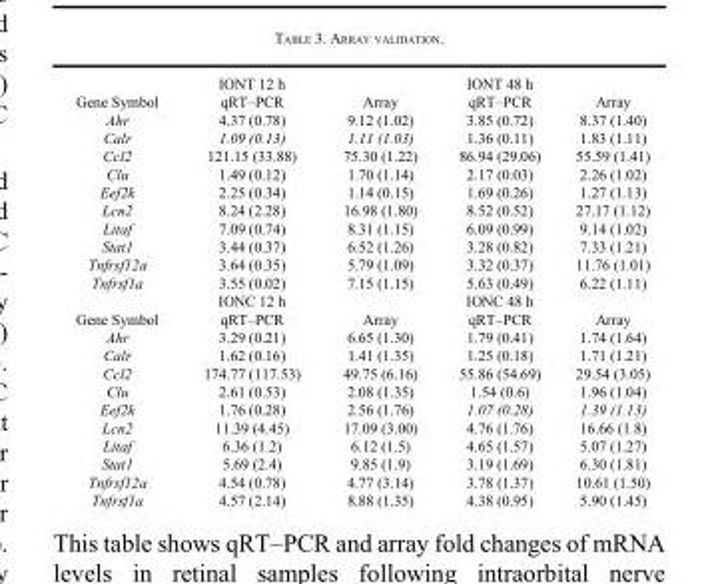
<table><thead><tr><td></td><td>IONT 12 h</td><td></td><td>IONT 48 h</td><td></td></tr></thead><tbody><tr><td>Gene Symbol</td><td>qRT–PCR</td><td>Array</td><td>qRT–PCR</td><td>Array</td></tr><tr><td>Ahr</td><td>4.37 (0.78)</td><td>9.12 (1.02)</td><td>3.85 (0.72)</td><td>8.37 (1.40)</td></tr><tr><td>Calr</td><td>1.09 (0.13)</td><td>1.11 (1.03)</td><td>1.36 (0.11)</td><td>1.83 (1.11)</td></tr><tr><td>Ccl2</td><td>121.15 (33.88)</td><td>75.30 (1.22)</td><td>86.94 (29.06)</td><td>55.59 (1.41)</td></tr><tr><td>Clu</td><td>1.49 (0.12)</td><td>1.70 (1.14)</td><td>2.17 (0.03)</td><td>2.26 (1.02)</td></tr><tr><td>Eef2k</td><td>2.25 (0.34)</td><td>1.14 (0.15)</td><td>1.69 (0.26)</td><td>1.27 (1.13)</td></tr><tr><td>Lcn2</td><td>8.24 (2.28)</td><td>16.98 (1.80)</td><td>8.52 (0.52)</td><td>27.17 (1.12)</td></tr><tr><td>Litaf</td><td>7.09 (0.74)</td><td>8.31 (1.15)</td><td>6.09 (0.99)</td><td>9.14 (1.02)</td></tr><tr><td>Stat1</td><td>3.44 (0.37)</td><td>6.52 (1.26)</td><td>3.28 (0.82)</td><td>7.33 (1.21)</td></tr><tr><td>Tnfrsf12a</td><td>3.64 (0.35)</td><td>5.79 (1.09)</td><td>3.32 (0.37)</td><td>11.76 (1.01)</td></tr><tr><td rowspan="2">Tnfrsf1a</td><td>3.55 (0.02)</td><td>7.15 (1.15)</td><td>5.63 (0.49)</td><td>6.22 (1.11)</td></tr><tr><td>IONC 12 h</td><td></td><td>IONC 48 h</td><td></td></tr><tr><td>Gene Symbol</td><td>qRT–PCR</td><td>Array</td><td>qRT–PCR</td><td>Array</td></tr><tr><td>Ahr</td><td>3.29 (0.21)</td><td>6.65 (1.30)</td><td>1.79 (0.41)</td><td>1.74 (1.64)</td></tr><tr><td>Calr</td><td>1.62 (0.16)</td><td>1.41 (1.35)</td><td>1.25 (0.18)</td><td>1.71 (1.21)</td></tr><tr><td>Ccl2</td><td>174.77 (117.53)</td><td>49.75 (6.16)</td><td>55.86 (54.69)</td><td>29.54 (3.05)</td></tr><tr><td>Clu</td><td>2.61 (0.53)</td><td>2.08 (1.35)</td><td>1.54 (0.6)</td><td>1.96 (1.04)</td></tr><tr><td>Eef2k</td><td>1.76 (0.28)</td><td>2.56 (1.76)</td><td>1.07 (0.28)</td><td>1.39 (1.13)</td></tr><tr><td>Lcn2</td><td>11.39 (4.45)</td><td>17.09 (3.00)</td><td>4.76 (1.76)</td><td>16.66 (1.8)</td></tr><tr><td>Litaf</td><td>6.36 (1.2)</td><td>6.12 (1.5)</td><td>4.65 (1.57)</td><td>5.07 (1.27)</td></tr><tr><td>Stat1</td><td>5.69 (2.4)</td><td>9.85 (1.9)</td><td>3.19 (1.69)</td><td>6.30 (1.81)</td></tr><tr><td>Tnfrsf12a</td><td>4.54 (0.78)</td><td>4.77 (3.14)</td><td>3.78 (1.37)</td><td>10.61 (1.50)</td></tr><tr><td>Tnfrsf1a</td><td>4.57 (2.14)</td><td>8.88 (1.35)</td><td>4.38 (0.95)</td><td>5.90 (1.45)</td></tr></tbody></table>